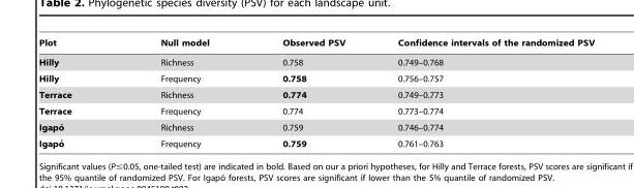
<table><thead><tr><td>Plot</td><td>Null model</td><td>Observed PSV</td><td>Confidence intervals of the randomized PSV</td></tr></thead><tbody><tr><td>Hilly</td><td>Richness</td><td>0.758</td><td>0.749–0.768</td></tr><tr><td>Hilly</td><td>Frequency</td><td>0.758</td><td>0.756–0.757</td></tr><tr><td>Terrace</td><td>Richness</td><td>0.774</td><td>0.749–0.773</td></tr><tr><td>Terrace</td><td>Frequency</td><td>0.774</td><td>0.773–0.774</td></tr><tr><td>Igapo´</td><td>Richness</td><td>0.759</td><td>0.746–0.774</td></tr><tr><td>Igapo´</td><td>Frequency</td><td>0.759</td><td>0.761–0.763</td></tr></tbody></table>